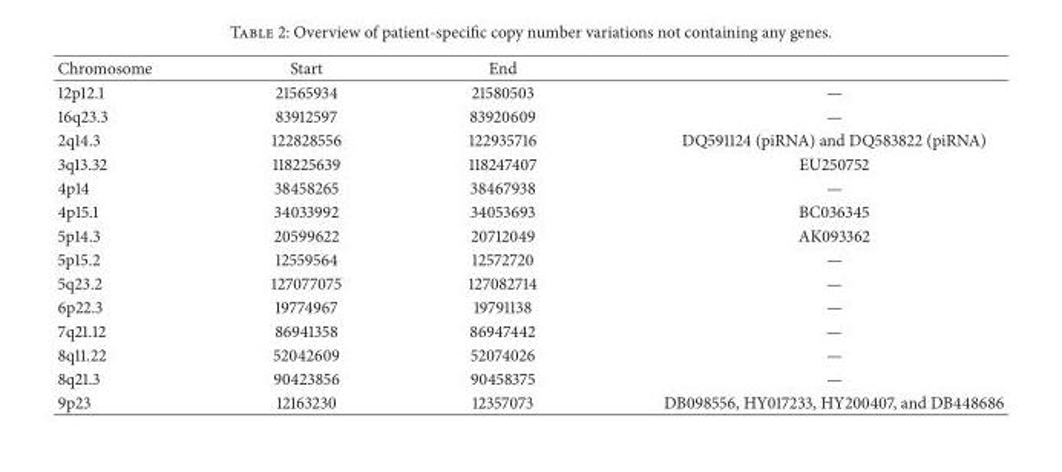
<table><thead><tr><td>Chromosome</td><td>Start</td><td>End</td><td></td></tr></thead><tbody><tr><td>12p12.1</td><td>21565934</td><td>21580503</td><td>—</td></tr><tr><td>16q23.3</td><td>83912597</td><td>83920609</td><td>—</td></tr><tr><td>2q14.3</td><td>122828556</td><td>122935716</td><td>DQ591124 (piRNA) and DQ583822 (piRNA)</td></tr><tr><td>3q13.32</td><td>118225639</td><td>118247407</td><td>EU250752</td></tr><tr><td>4p14</td><td>38458265</td><td>38467938</td><td>—</td></tr><tr><td>4p15.1</td><td>34033992</td><td>34053693</td><td>BC036345</td></tr><tr><td>5p14.3</td><td>20599622</td><td>20712049</td><td>AK093362</td></tr><tr><td>5p15.2</td><td>12559564</td><td>12572720</td><td>—</td></tr><tr><td>5q23.2</td><td>127077075</td><td>127082714</td><td>—</td></tr><tr><td>6p22.3</td><td>19774967</td><td>19791138</td><td>—</td></tr><tr><td>7q21.12</td><td>86941358</td><td>86947442</td><td>—</td></tr><tr><td>8q11.22</td><td>52042609</td><td>52074026</td><td>—</td></tr><tr><td>8q21.3</td><td>90423856</td><td>90458375</td><td>—</td></tr><tr><td>9p23</td><td>12163230</td><td>12357073</td><td>DB098556, HY017233, HY200407, and DB448686</td></tr></tbody></table>